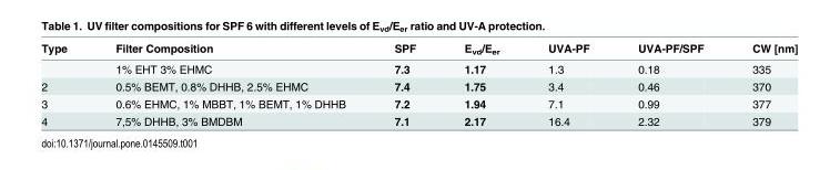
<table><thead><tr><td>Type</td><td>Filter Composition</td><td>SPF</td><td>E<sub>vd</sub>/E<sub>er</sub></td><td>UVA-PF</td><td>UVA-PF/SPF</td><td>CW [nm]</td></tr></thead><tbody><tr><td></td><td>1% EHT 3% EHMC</td><td>7.3</td><td>1.17</td><td>1.3</td><td>0.18</td><td>335</td></tr><tr><td>2</td><td>0.5% BEMT, 0.8% DHHB, 2.5% EHMC</td><td>7.4</td><td>1.75</td><td>3.4</td><td>0.46</td><td>370</td></tr><tr><td>3</td><td>0.6% EHMC, 1% MBBT, 1% BEMT, 1% DHHB</td><td>7.2</td><td>1.94</td><td>7.1</td><td>0.99</td><td>377</td></tr><tr><td>4</td><td>7,5% DHHB, 3% BMDBM</td><td>7.1</td><td>2.17</td><td>16.4</td><td>2.32</td><td>379</td></tr></tbody></table>